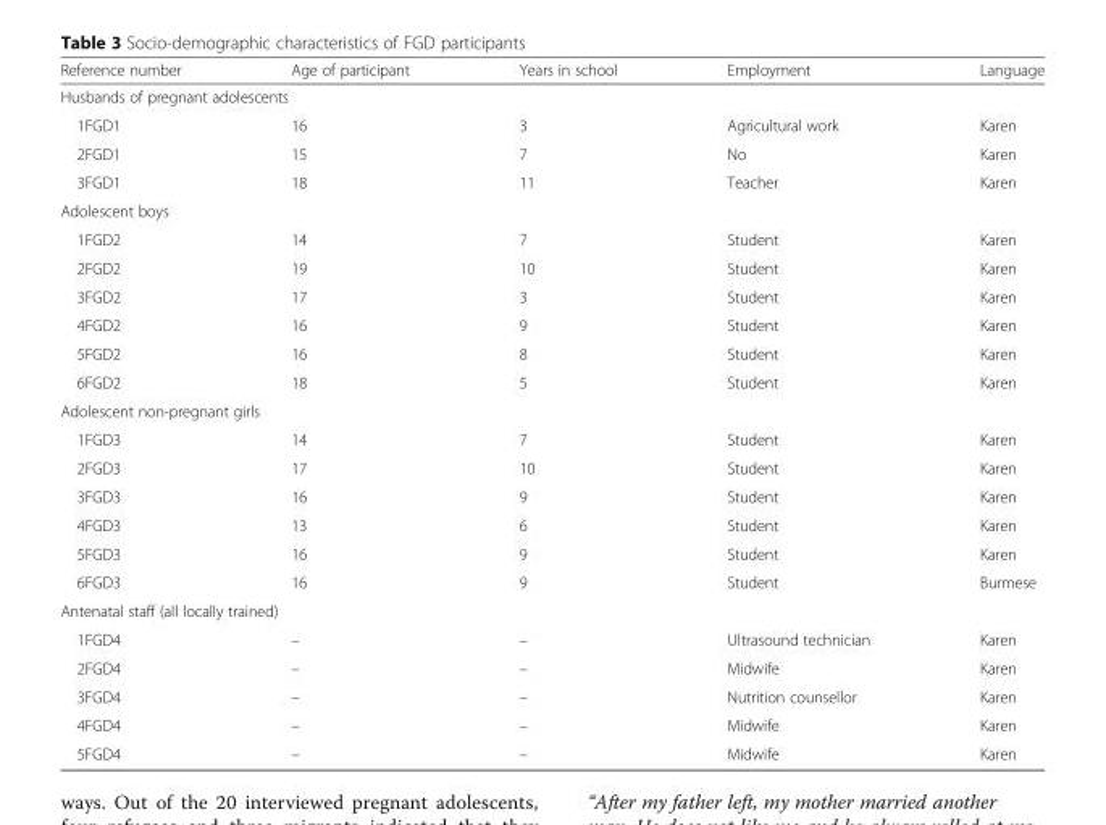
<table><thead><tr><td>Reference number</td><td>Age of participant</td><td>Years in school</td><td>Employment</td><td>Language</td></tr></thead><tbody><tr><td colspan="5">Husbands of pregnant adolescents</td></tr><tr><td>1FGD1</td><td>16</td><td>3</td><td>Agricultural work</td><td>Karen</td></tr><tr><td>2FGD1</td><td>15</td><td>7</td><td>No</td><td>Karen</td></tr><tr><td>3FGD1</td><td>18</td><td>11</td><td>Teacher</td><td>Karen</td></tr><tr><td colspan="5">Adolescent boys</td></tr><tr><td>1FGD2</td><td>14</td><td>7</td><td>Student</td><td>Karen</td></tr><tr><td>2FGD2</td><td>19</td><td>10</td><td>Student</td><td>Karen</td></tr><tr><td>3FGD2</td><td>17</td><td>3</td><td>Student</td><td>Karen</td></tr><tr><td>4FGD2</td><td>16</td><td>9</td><td>Student</td><td>Karen</td></tr><tr><td>5FGD2</td><td>16</td><td>8</td><td>Student</td><td>Karen</td></tr><tr><td>6FGD2</td><td>18</td><td>5</td><td>Student</td><td>Karen</td></tr><tr><td colspan="5">Adolescent non-pregnant girls</td></tr><tr><td>1FGD3</td><td>14</td><td>7</td><td>Student</td><td>Karen</td></tr><tr><td>2FGD3</td><td>17</td><td>10</td><td>Student</td><td>Karen</td></tr><tr><td>3FGD3</td><td>16</td><td>9</td><td>Student</td><td>Karen</td></tr><tr><td>4FGD3</td><td>13</td><td>6</td><td>Student</td><td>Karen</td></tr><tr><td>5FGD3</td><td>16</td><td>9</td><td>Student</td><td>Karen</td></tr><tr><td>6FGD3</td><td>16</td><td>9</td><td>Student</td><td>Burmese</td></tr><tr><td colspan="5">Antenatal staff (all locally trained)</td></tr><tr><td>1FGD4</td><td>–</td><td>–</td><td>Ultrasound technician</td><td>Karen</td></tr><tr><td>2FGD4</td><td>–</td><td>–</td><td>Midwife</td><td>Karen</td></tr><tr><td>3FGD4</td><td>–</td><td>–</td><td>Nutrition counsellor</td><td>Karen</td></tr><tr><td>4FGD4</td><td>–</td><td>–</td><td>Midwife</td><td>Karen</td></tr><tr><td>5FGD4</td><td>–</td><td>–</td><td>Midwife</td><td>Karen</td></tr></tbody></table>